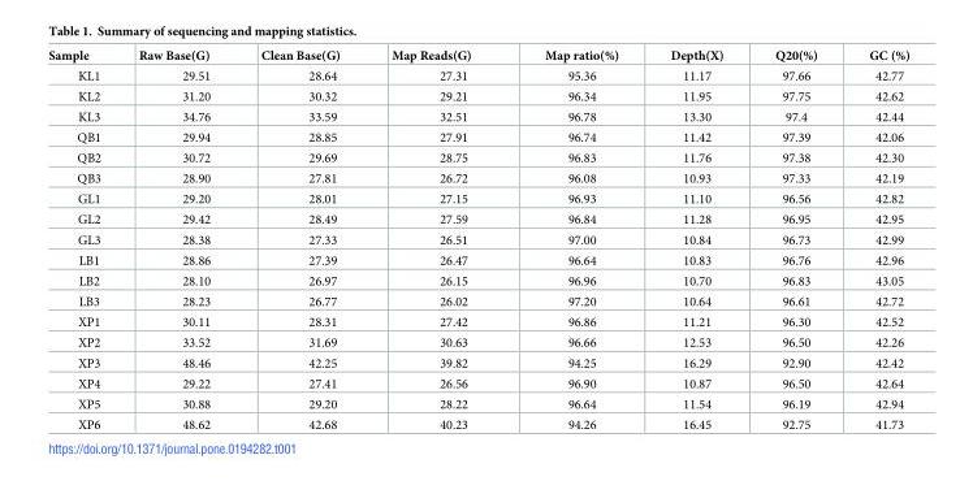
<table><thead><tr><td>Sample</td><td>Raw Base(G)</td><td>Clean Base(G)</td><td>Map Reads(G)</td><td>Map ratio(%)</td><td>Depth(X)</td><td>Q20(%)</td><td>GC (%)</td></tr></thead><tbody><tr><td>KL1</td><td>29.51</td><td>28.64</td><td>27.31</td><td>95.36</td><td>11.17</td><td>97.66</td><td>42.77</td></tr><tr><td>KL2</td><td>31.20</td><td>30.32</td><td>29.21</td><td>96.34</td><td>11.95</td><td>97.75</td><td>42.62</td></tr><tr><td>KL3</td><td>34.76</td><td>33.59</td><td>32.51</td><td>96.78</td><td>13.30</td><td>97.4</td><td>42.44</td></tr><tr><td>QB1</td><td>29.94</td><td>28.85</td><td>27.91</td><td>96.74</td><td>11.42</td><td>97.39</td><td>42.06</td></tr><tr><td>QB2</td><td>30.72</td><td>29.69</td><td>28.75</td><td>96.83</td><td>11.76</td><td>97.38</td><td>42.30</td></tr><tr><td>QB3</td><td>28.90</td><td>27.81</td><td>26.72</td><td>96.08</td><td>10.93</td><td>97.33</td><td>42.19</td></tr><tr><td>GL1</td><td>29.20</td><td>28.01</td><td>27.15</td><td>96.93</td><td>11.10</td><td>96.56</td><td>42.82</td></tr><tr><td>GL2</td><td>29.42</td><td>28.49</td><td>27.59</td><td>96.84</td><td>11.28</td><td>96.95</td><td>42.95</td></tr><tr><td>GL3</td><td>28.38</td><td>27.33</td><td>26.51</td><td>97.00</td><td>10.84</td><td>96.73</td><td>42.99</td></tr><tr><td>LB1</td><td>28.86</td><td>27.39</td><td>26.47</td><td>96.64</td><td>10.83</td><td>96.76</td><td>42.96</td></tr><tr><td>LB2</td><td>28.10</td><td>26.97</td><td>26.15</td><td>96.96</td><td>10.70</td><td>96.83</td><td>43.05</td></tr><tr><td>LB3</td><td>28.23</td><td>26.77</td><td>26.02</td><td>97.20</td><td>10.64</td><td>96.61</td><td>42.72</td></tr><tr><td>XP1</td><td>30.11</td><td>28.31</td><td>27.42</td><td>96.86</td><td>11.21</td><td>96.30</td><td>42.52</td></tr><tr><td>XP2</td><td>33.52</td><td>31.69</td><td>30.63</td><td>96.66</td><td>12.53</td><td>96.50</td><td>42.26</td></tr><tr><td>XP3</td><td>48.46</td><td>42.25</td><td>39.82</td><td>94.25</td><td>16.29</td><td>92.90</td><td>42.42</td></tr><tr><td>XP4</td><td>29.22</td><td>27.41</td><td>26.56</td><td>96.90</td><td>10.87</td><td>96.50</td><td>42.64</td></tr><tr><td>XP5</td><td>30.88</td><td>29.20</td><td>28.22</td><td>96.64</td><td>11.54</td><td>96.19</td><td>42.94</td></tr><tr><td>XP6</td><td>48.62</td><td>42.68</td><td>40.23</td><td>94.26</td><td>16.45</td><td>92.75</td><td>41.73</td></tr></tbody></table>